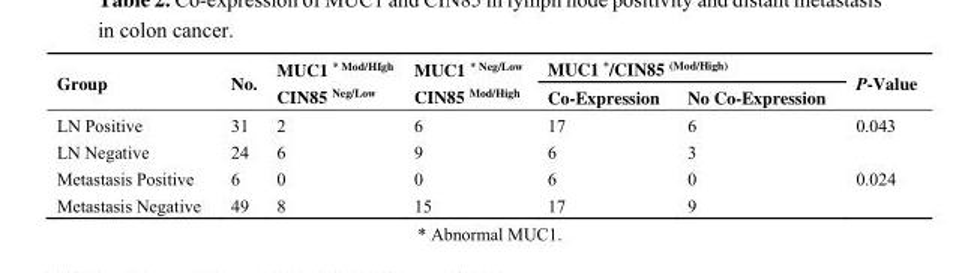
<table><thead><tr><td rowspan="2">Group</td><td rowspan="2">No.</td><td rowspan="2">MUC1 <sup>* Mod/HIgh</sup> CIN85 <sup>Neg/Low</sup></td><td rowspan="2">MUC1 <sup>* Neg/Low</sup> CIN85 <sup>Mod/High</sup></td><td colspan="2">MUC1 */CIN85 <sup>(Mod/High)</sup></td><td rowspan="2">P-Value</td></tr><tr><td>Co-Expression</td><td>No Co-Expression</td></tr></thead><tbody><tr><td>LN Positive</td><td>31</td><td>2</td><td>6</td><td>17</td><td>6</td><td>0.043</td></tr><tr><td>LN Negative</td><td>24</td><td>6</td><td>9</td><td>6</td><td>3</td><td></td></tr><tr><td>Metastasis Positive</td><td>6</td><td>0</td><td>0</td><td>6</td><td>0</td><td>0.024</td></tr><tr><td>Metastasis Negative</td><td>49</td><td>8</td><td>15</td><td>17</td><td>9</td><td></td></tr></tbody></table>